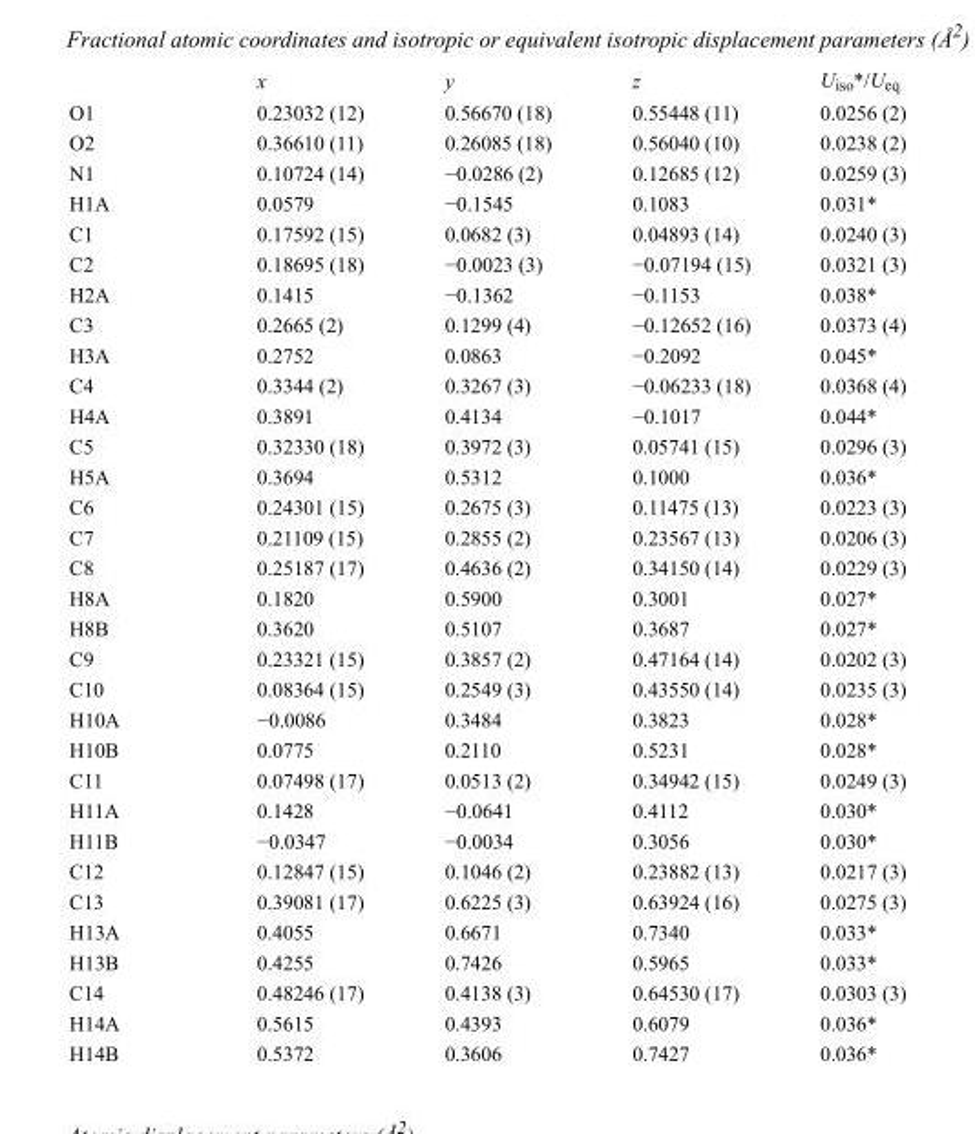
<table><thead><tr><td></td><td>x</td><td>y</td><td>z</td><td>U<sub>iso</sub>*/U<sub>eq</sub></td></tr></thead><tbody><tr><td>O1</td><td>0.23032 (12)</td><td>0.56670 (18)</td><td>0.55448 (11)</td><td>0.0256 (2)</td></tr><tr><td>O2</td><td>0.36610 (11)</td><td>0.26085 (18)</td><td>0.56040 (10)</td><td>0.0238 (2)</td></tr><tr><td>N1</td><td>0.10724 (14)</td><td>−0.0286 (2)</td><td>0.12685 (12)</td><td>0.0259 (3)</td></tr><tr><td>H1A</td><td>0.0579</td><td>−0.1545</td><td>0.1083</td><td>0.031*</td></tr><tr><td>C1</td><td>0.17592 (15)</td><td>0.0682 (3)</td><td>0.04893 (14)</td><td>0.0240 (3)</td></tr><tr><td>C2</td><td>0.18695 (18)</td><td>−0.0023 (3)</td><td>−0.07194 (15)</td><td>0.0321 (3)</td></tr><tr><td>H2A</td><td>0.1415</td><td>−0.1362</td><td>−0.1153</td><td>0.038*</td></tr><tr><td>C3</td><td>0.2665 (2)</td><td>0.1299 (4)</td><td>−0.12652 (16)</td><td>0.0373 (4)</td></tr><tr><td>H3A</td><td>0.2752</td><td>0.0863</td><td>−0.2092</td><td>0.045*</td></tr><tr><td>C4</td><td>0.3344 (2)</td><td>0.3267 (3)</td><td>−0.06233 (18)</td><td>0.0368 (4)</td></tr><tr><td>H4A</td><td>0.3891</td><td>0.4134</td><td>−0.1017</td><td>0.044*</td></tr><tr><td>C5</td><td>0.32330 (18)</td><td>0.3972 (3)</td><td>0.05741 (15)</td><td>0.0296 (3)</td></tr><tr><td>H5A</td><td>0.3694</td><td>0.5312</td><td>0.1000</td><td>0.036*</td></tr><tr><td>C6</td><td>0.24301 (15)</td><td>0.2675 (3)</td><td>0.11475 (13)</td><td>0.0223 (3)</td></tr><tr><td>C7</td><td>0.21109 (15)</td><td>0.2855 (2)</td><td>0.23567 (13)</td><td>0.0206 (3)</td></tr><tr><td>C8</td><td>0.25187 (17)</td><td>0.4636 (2)</td><td>0.34150 (14)</td><td>0.0229 (3)</td></tr><tr><td>H8A</td><td>0.1820</td><td>0.5900</td><td>0.3001</td><td>0.027*</td></tr><tr><td>H8B</td><td>0.3620</td><td>0.5107</td><td>0.3687</td><td>0.027*</td></tr><tr><td>C9</td><td>0.23321 (15)</td><td>0.3857 (2)</td><td>0.47164 (14)</td><td>0.0202 (3)</td></tr><tr><td>C10</td><td>0.08364 (15)</td><td>0.2549 (3)</td><td>0.43550 (14)</td><td>0.0235 (3)</td></tr><tr><td>H10A</td><td>−0.0086</td><td>0.3484</td><td>0.3823</td><td>0.028*</td></tr><tr><td>H10B</td><td>0.0775</td><td>0.2110</td><td>0.5231</td><td>0.028*</td></tr><tr><td>C11</td><td>0.07498 (17)</td><td>0.0513 (2)</td><td>0.34942 (15)</td><td>0.0249 (3)</td></tr><tr><td>H11A</td><td>0.1428</td><td>−0.0641</td><td>0.4112</td><td>0.030*</td></tr><tr><td>H11B</td><td>−0.0347</td><td>−0.0034</td><td>0.3056</td><td>0.030*</td></tr><tr><td>C12</td><td>0.12847 (15)</td><td>0.1046 (2)</td><td>0.23882 (13)</td><td>0.0217 (3)</td></tr><tr><td>C13</td><td>0.39081 (17)</td><td>0.6225 (3)</td><td>0.63924 (16)</td><td>0.0275 (3)</td></tr><tr><td>H13A</td><td>0.4055</td><td>0.6671</td><td>0.7340</td><td>0.033*</td></tr><tr><td>H13B</td><td>0.4255</td><td>0.7426</td><td>0.5965</td><td>0.033*</td></tr><tr><td>C14</td><td>0.48246 (17)</td><td>0.4138 (3)</td><td>0.64530 (17)</td><td>0.0303 (3)</td></tr><tr><td>H14A</td><td>0.5615</td><td>0.4393</td><td>0.6079</td><td>0.036*</td></tr><tr><td>H14B</td><td>0.5372</td><td>0.3606</td><td>0.7427</td><td>0.036*</td></tr></tbody></table>